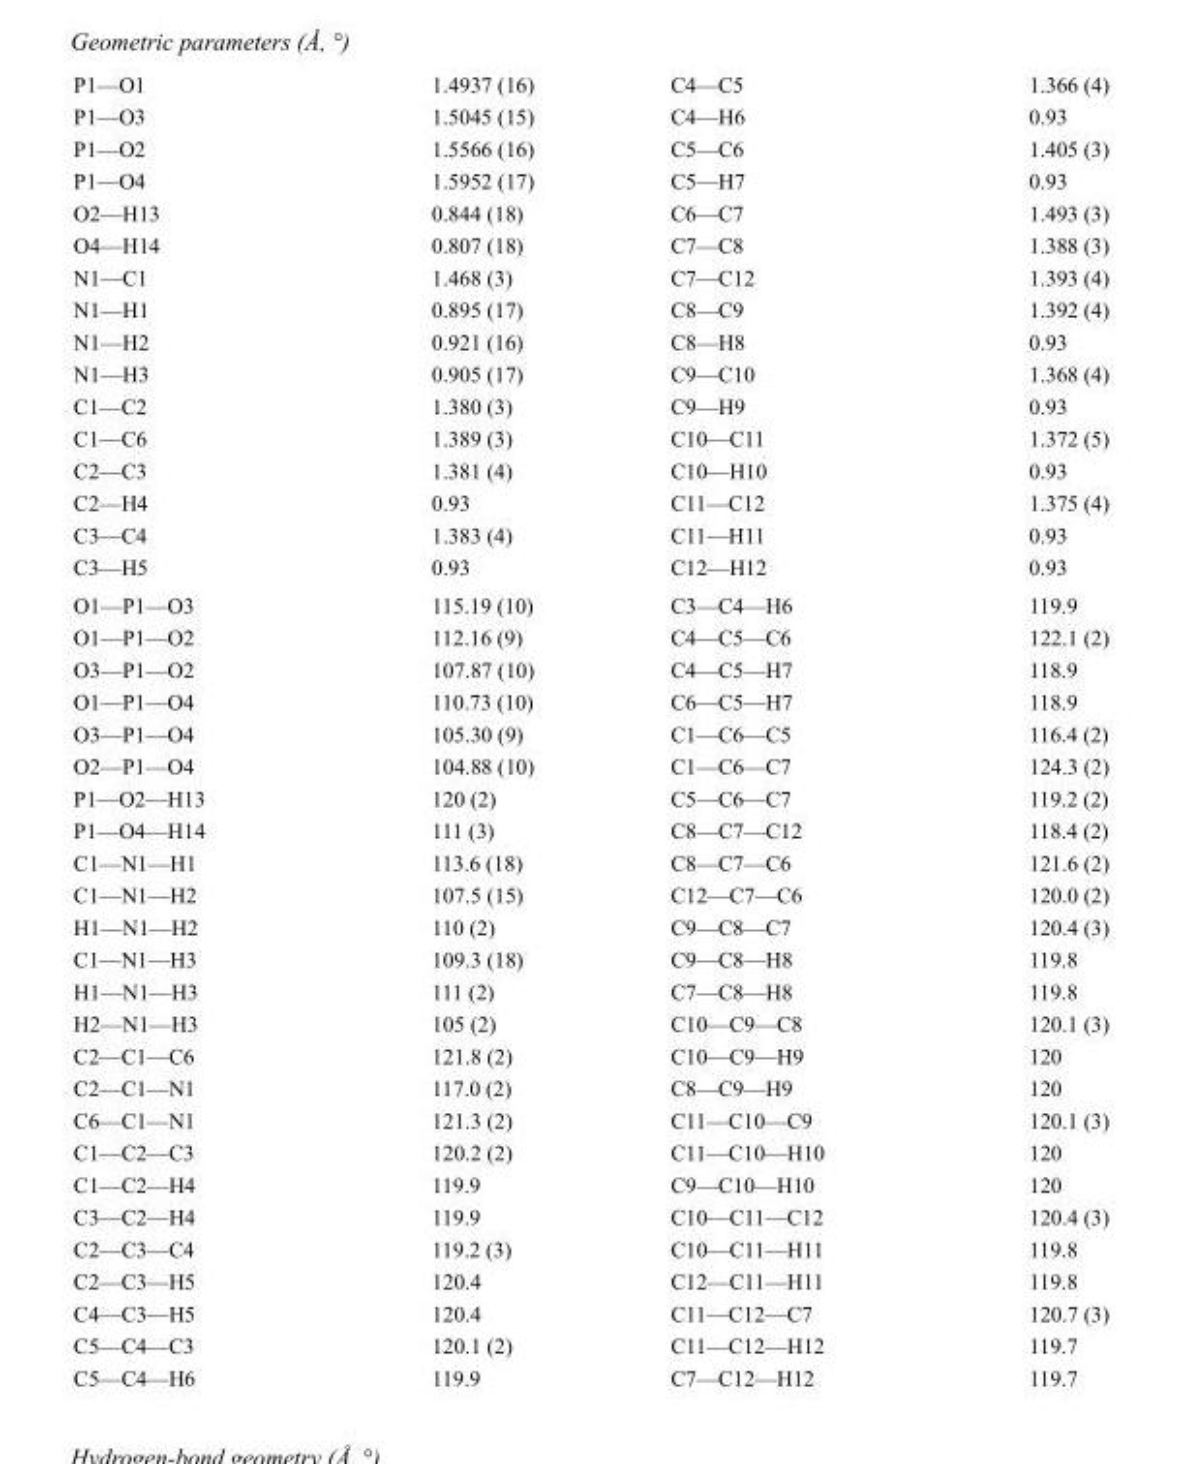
<table><tbody><tr><td>P1—O1</td><td>1.4937 (16)</td><td>C4—C5</td><td>1.366 (4)</td></tr><tr><td>P1—O3</td><td>1.5045 (15)</td><td>C4—H6</td><td>0.93</td></tr><tr><td>P1—O2</td><td>1.5566 (16)</td><td>C5—C6</td><td>1.405 (3)</td></tr><tr><td>P1—O4</td><td>1.5952 (17)</td><td>C5—H7</td><td>0.93</td></tr><tr><td>O2—H13</td><td>0.844 (18)</td><td>C6—C7</td><td>1.493 (3)</td></tr><tr><td>O4—H14</td><td>0.807 (18)</td><td>C7—C8</td><td>1.388 (3)</td></tr><tr><td>N1—C1</td><td>1.468 (3)</td><td>C7—C12</td><td>1.393 (4)</td></tr><tr><td>N1—H1</td><td>0.895 (17)</td><td>C8—C9</td><td>1.392 (4)</td></tr><tr><td>N1—H2</td><td>0.921 (16)</td><td>C8—H8</td><td>0.93</td></tr><tr><td>N1—H3</td><td>0.905 (17)</td><td>C9—C10</td><td>1.368 (4)</td></tr><tr><td>C1—C2</td><td>1.380 (3)</td><td>C9—H9</td><td>0.93</td></tr><tr><td>C1—C6</td><td>1.389 (3)</td><td>C10—C11</td><td>1.372 (5)</td></tr><tr><td>C2—C3</td><td>1.381 (4)</td><td>C10—H10</td><td>0.93</td></tr><tr><td>C2—H4</td><td>0.93</td><td>C11—C12</td><td>1.375 (4)</td></tr><tr><td>C3—C4</td><td>1.383 (4)</td><td>C11—H11</td><td>0.93</td></tr><tr><td>C3—H5</td><td>0.93</td><td>C12—H12</td><td>0.93</td></tr><tr><td>O1—P1—O3</td><td>115.19 (10)</td><td>C3—C4—H6</td><td>119.9</td></tr><tr><td>O1—P1—O2</td><td>112.16 (9)</td><td>C4—C5—C6</td><td>122.1 (2)</td></tr><tr><td>O3—P1—O2</td><td>107.87 (10)</td><td>C4—C5—H7</td><td>118.9</td></tr><tr><td>O1—P1—O4</td><td>110.73 (10)</td><td>C6—C5—H7</td><td>118.9</td></tr><tr><td>O3—P1—O4</td><td>105.30 (9)</td><td>C1—C6—C5</td><td>116.4 (2)</td></tr><tr><td>O2—P1—O4</td><td>104.88 (10)</td><td>C1—C6—C7</td><td>124.3 (2)</td></tr><tr><td>P1—O2—H13</td><td>120 (2)</td><td>C5—C6—C7</td><td>119.2 (2)</td></tr><tr><td>P1—O4—H14</td><td>111 (3)</td><td>C8—C7—C12</td><td>118.4 (2)</td></tr><tr><td>C1—N1—H1</td><td>113.6 (18)</td><td>C8—C7—C6</td><td>121.6 (2)</td></tr><tr><td>C1—N1—H2</td><td>107.5 (15)</td><td>C12—C7—C6</td><td>120.0 (2)</td></tr><tr><td>H1—N1—H2</td><td>110 (2)</td><td>C9—C8—C7</td><td>120.4 (3)</td></tr><tr><td>C1—N1—H3</td><td>109.3 (18)</td><td>C9—C8—H8</td><td>119.8</td></tr><tr><td>H1—N1—H3</td><td>111 (2)</td><td>C7—C8—H8</td><td>119.8</td></tr><tr><td>H2—N1—H3</td><td>105 (2)</td><td>C10—C9—C8</td><td>120.1 (3)</td></tr><tr><td>C2—C1—C6</td><td>121.8 (2)</td><td>C10—C9—H9</td><td>120</td></tr><tr><td>C2—C1—N1</td><td>117.0 (2)</td><td>C8—C9—H9</td><td>120</td></tr><tr><td>C6—C1—N1</td><td>121.3 (2)</td><td>C11—C10—C9</td><td>120.1 (3)</td></tr><tr><td>C1—C2—C3</td><td>120.2 (2)</td><td>C11—C10—H10</td><td>120</td></tr><tr><td>C1—C2—H4</td><td>119.9</td><td>C9—C10—H10</td><td>120</td></tr><tr><td>C3—C2—H4</td><td>119.9</td><td>C10—C11—C12</td><td>120.4 (3)</td></tr><tr><td>C2—C3—C4</td><td>119.2 (3)</td><td>C10—C11—H11</td><td>119.8</td></tr><tr><td>C2—C3—H5</td><td>120.4</td><td>C12—C11—H11</td><td>119.8</td></tr><tr><td>C4—C3—H5</td><td>120.4</td><td>C11—C12—C7</td><td>120.7 (3)</td></tr><tr><td>C5—C4—C3</td><td>120.1 (2)</td><td>C11—C12—H12</td><td>119.7</td></tr><tr><td>C5—C4—H6</td><td>119.9</td><td>C7—C12—H12</td><td>119.7</td></tr></tbody></table>